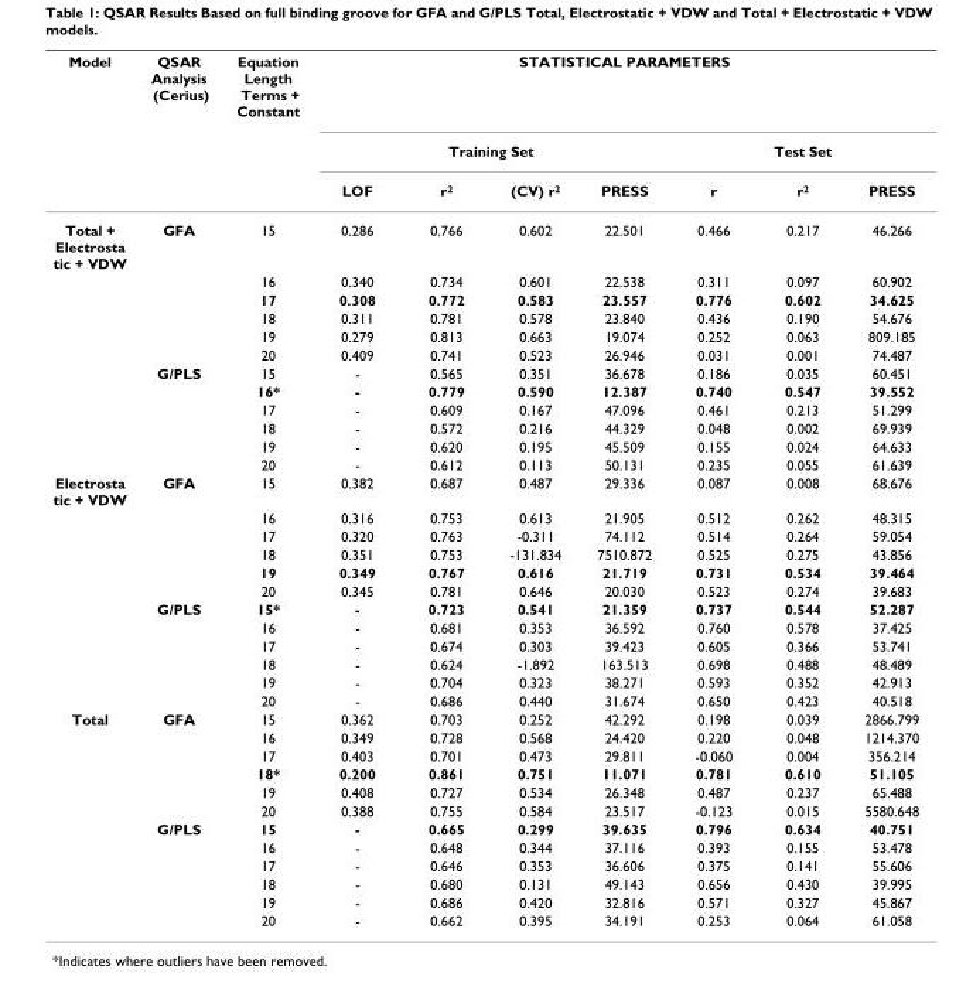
<table><thead><tr><td rowspan="3">Model</td><td rowspan="3">QSAR Analysis (Cerius)</td><td rowspan="3">Equation Length Terms + Constant</td><td colspan="7">STATISTICAL PARAMETERS</td></tr><tr><td colspan="4">Training Set</td><td colspan="3">Test Set</td></tr><tr><td>LOF</td><td>r2</td><td>(CV) r2</td><td>PRESS</td><td>r</td><td>r2</td><td>PRESS</td></tr></thead><tbody><tr><td rowspan="12">Total + Electrosta tic + VDW</td><td>GFA</td><td>15</td><td>0.286</td><td>0.766</td><td>0.602</td><td>22.501</td><td>0.466</td><td>0.217</td><td>46.266</td></tr><tr><td></td><td>16</td><td>0.340</td><td>0.734</td><td>0.601</td><td>22.538</td><td>0.311</td><td>0.097</td><td>60.902</td></tr><tr><td></td><td>17</td><td>0.308</td><td>0.772</td><td>0.583</td><td>23.557</td><td>0.776</td><td>0.602</td><td>34.625</td></tr><tr><td></td><td>18</td><td>0.311</td><td>0.781</td><td>0.578</td><td>23.840</td><td>0.436</td><td>0.190</td><td>54.676</td></tr><tr><td></td><td>19</td><td>0.279</td><td>0.813</td><td>0.663</td><td>19.074</td><td>0.252</td><td>0.063</td><td>809.185</td></tr><tr><td></td><td>20</td><td>0.409</td><td>0.741</td><td>0.523</td><td>26.946</td><td>0.031</td><td>0.001</td><td>74.487</td></tr><tr><td>G/PLS</td><td>15</td><td>-</td><td>0.565</td><td>0.351</td><td>36.678</td><td>0.186</td><td>0.035</td><td>60.451</td></tr><tr><td></td><td>16*</td><td>-</td><td>0.779</td><td>0.590</td><td>12.387</td><td>0.740</td><td>0.547</td><td>39.552</td></tr><tr><td></td><td>17</td><td>-</td><td>0.609</td><td>0.167</td><td>47.096</td><td>0.461</td><td>0.213</td><td>51.299</td></tr><tr><td></td><td>18</td><td>-</td><td>0.572</td><td>0.216</td><td>44.329</td><td>0.048</td><td>0.002</td><td>69.939</td></tr><tr><td></td><td>19</td><td>-</td><td>0.620</td><td>0.195</td><td>45.509</td><td>0.155</td><td>0.024</td><td>64.633</td></tr><tr><td></td><td>20</td><td>-</td><td>0.612</td><td>0.113</td><td>50.131</td><td>0.235</td><td>0.055</td><td>61.639</td></tr><tr><td rowspan="12">Electrosta tic + VDW</td><td>GFA</td><td>15</td><td>0.382</td><td>0.687</td><td>0.487</td><td>29.336</td><td>0.087</td><td>0.008</td><td>68.676</td></tr><tr><td></td><td>16</td><td>0.316</td><td>0.753</td><td>0.613</td><td>21.905</td><td>0.512</td><td>0.262</td><td>48.315</td></tr><tr><td></td><td>17</td><td>0.320</td><td>0.763</td><td>-0.311</td><td>74.112</td><td>0.514</td><td>0.264</td><td>59.054</td></tr><tr><td></td><td>18</td><td>0.351</td><td>0.753</td><td>-131.834</td><td>7510.872</td><td>0.525</td><td>0.275</td><td>43.856</td></tr><tr><td></td><td>19</td><td>0.349</td><td>0.767</td><td>0.616</td><td>21.719</td><td>0.731</td><td>0.534</td><td>39.464</td></tr><tr><td></td><td>20</td><td>0.345</td><td>0.781</td><td>0.646</td><td>20.030</td><td>0.523</td><td>0.274</td><td>39.683</td></tr><tr><td>G/PLS</td><td>15*</td><td>-</td><td>0.723</td><td>0.541</td><td>21.359</td><td>0.737</td><td>0.544</td><td>52.287</td></tr><tr><td></td><td>16</td><td>-</td><td>0.681</td><td>0.353</td><td>36.592</td><td>0.760</td><td>0.578</td><td>37.425</td></tr><tr><td></td><td>17</td><td>-</td><td>0.674</td><td>0.303</td><td>39.423</td><td>0.605</td><td>0.366</td><td>53.741</td></tr><tr><td></td><td>18</td><td>-</td><td>0.624</td><td>-1.892</td><td>163.513</td><td>0.698</td><td>0.488</td><td>48.489</td></tr><tr><td></td><td>19</td><td>-</td><td>0.704</td><td>0.323</td><td>38.271</td><td>0.593</td><td>0.352</td><td>42.913</td></tr><tr><td></td><td>20</td><td>-</td><td>0.686</td><td>0.440</td><td>31.674</td><td>0.650</td><td>0.423</td><td>40.518</td></tr><tr><td rowspan="12">Total</td><td>GFA</td><td>15</td><td>0.362</td><td>0.703</td><td>0.252</td><td>42.292</td><td>0.198</td><td>0.039</td><td>2866.799</td></tr><tr><td></td><td>16</td><td>0.349</td><td>0.728</td><td>0.568</td><td>24.420</td><td>0.220</td><td>0.048</td><td>1214.370</td></tr><tr><td></td><td>17</td><td>0.403</td><td>0.701</td><td>0.473</td><td>29.811</td><td>-0.060</td><td>0.004</td><td>356.214</td></tr><tr><td></td><td>18*</td><td>0.200</td><td>0.861</td><td>0.751</td><td>11.071</td><td>0.781</td><td>0.610</td><td>51.105</td></tr><tr><td></td><td>19</td><td>0.408</td><td>0.727</td><td>0.534</td><td>26.348</td><td>0.487</td><td>0.237</td><td>65.488</td></tr><tr><td></td><td>20</td><td>0.388</td><td>0.755</td><td>0.584</td><td>23.517</td><td>-0.123</td><td>0.015</td><td>5580.648</td></tr><tr><td>G/PLS</td><td>15</td><td>-</td><td>0.665</td><td>0.299</td><td>39.635</td><td>0.796</td><td>0.634</td><td>40.751</td></tr><tr><td></td><td>16</td><td>-</td><td>0.648</td><td>0.344</td><td>37.116</td><td>0.393</td><td>0.155</td><td>53.478</td></tr><tr><td></td><td>17</td><td>-</td><td>0.646</td><td>0.353</td><td>36.606</td><td>0.375</td><td>0.141</td><td>55.606</td></tr><tr><td></td><td>18</td><td>-</td><td>0.680</td><td>0.131</td><td>49.143</td><td>0.656</td><td>0.430</td><td>39.995</td></tr><tr><td></td><td>19</td><td>-</td><td>0.686</td><td>0.420</td><td>32.816</td><td>0.571</td><td>0.327</td><td>45.867</td></tr><tr><td></td><td>20</td><td>-</td><td>0.662</td><td>0.395</td><td>34.191</td><td>0.253</td><td>0.064</td><td>61.058</td></tr></tbody></table>